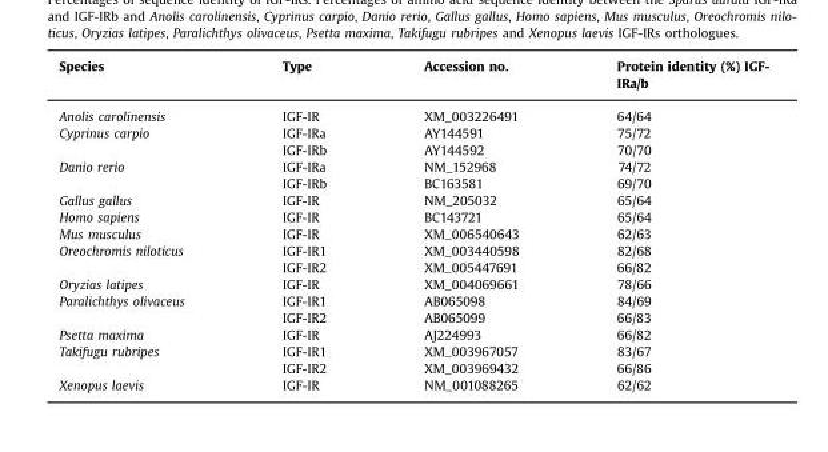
<table><thead><tr><td>Species</td><td>Type</td><td>Accession no.</td><td>Protein identity (%) IGF- IRa/b</td></tr></thead><tbody><tr><td>Anolis carolinensis</td><td>IGF-IR</td><td>XM_003226491</td><td>64/64</td></tr><tr><td rowspan="2">Cyprinus carpio</td><td>IGF-IRa</td><td>AY144591</td><td>75/72</td></tr><tr><td>IGF-IRb</td><td>AY144592</td><td>70/70</td></tr><tr><td rowspan="2">Danio rerio</td><td>IGF-IRa</td><td>NM_152968</td><td>74/72</td></tr><tr><td>IGF-IRb</td><td>BC163581</td><td>69/70</td></tr><tr><td>Gallus gallus</td><td>IGF-IR</td><td>NM_205032</td><td>65/64</td></tr><tr><td>Homo sapiens</td><td>IGF-IR</td><td>BC143721</td><td>65/64</td></tr><tr><td>Mus musculus</td><td>IGF-IR</td><td>XM_006540643</td><td>62/63</td></tr><tr><td rowspan="2">Oreochromis niloticus</td><td>IGF-IR1</td><td>XM_003440598</td><td>82/68</td></tr><tr><td>IGF-IR2</td><td>XM_005447691</td><td>66/82</td></tr><tr><td>Oryzias latipes</td><td>IGF-IR</td><td>XM_004069661</td><td>78/66</td></tr><tr><td rowspan="2">Paralichthys olivaceus</td><td>IGF-IR1</td><td>AB065098</td><td>84/69</td></tr><tr><td>IGF-IR2</td><td>AB065099</td><td>66/83</td></tr><tr><td>Psetta maxima</td><td>IGF-IR</td><td>AJ224993</td><td>66/82</td></tr><tr><td rowspan="2">Takifugu rubripes</td><td>IGF-IR1</td><td>XM_003967057</td><td>83/67</td></tr><tr><td>IGF-IR2</td><td>XM_003969432</td><td>66/86</td></tr><tr><td>Xenopus laevis</td><td>IGF-IR</td><td>NM_001088265</td><td>62/62</td></tr></tbody></table>